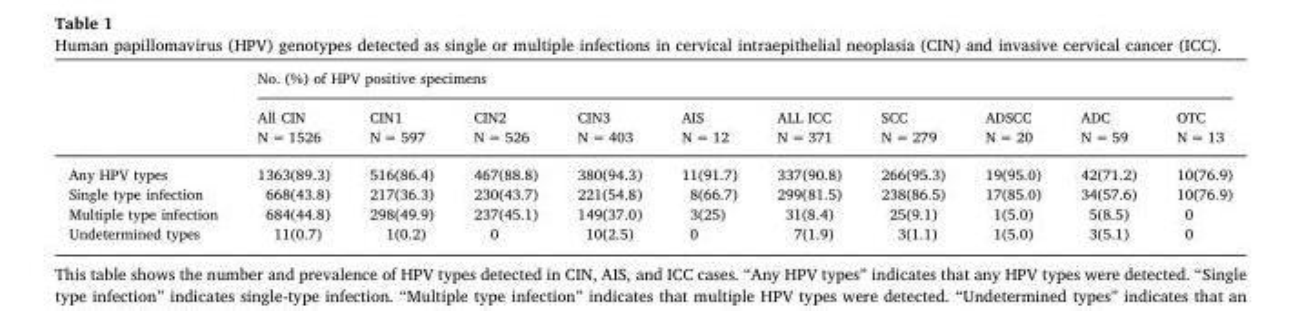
<table><thead><tr><td rowspan="3"></td><td colspan="10">No. (%) of HPV positive specimens</td></tr><tr><td rowspan="2">All CIN N = 1526</td><td rowspan="2">CIN1 N = 597</td><td rowspan="2">CIN2 N = 526</td><td rowspan="2">CIN3 N = 403</td><td rowspan="2">AIS N = 12</td><td rowspan="2">ALL ICC N = 371</td><td rowspan="2">SCC N = 279</td><td rowspan="2">ADSCC N = 20</td><td rowspan="2">ADC N = 59</td><td rowspan="2">OTC N = 13</td></tr><tr></tr></thead><tbody><tr><td>Any HPV types</td><td>1363(89.3)</td><td>516(86.4)</td><td>467(88.8)</td><td>380(94.3)</td><td>11(91.7)</td><td>337(90.8)</td><td>266(95.3)</td><td>19(95.0)</td><td>42(71.2)</td><td>10(76.9)</td></tr><tr><td>Single type infection</td><td>668(43.8)</td><td>217(36.3)</td><td>230(43.7)</td><td>221(54.8)</td><td>8(66.7)</td><td>299(81.5)</td><td>238(86.5)</td><td>17(85.0)</td><td>34(57.6)</td><td>10(76.9)</td></tr><tr><td>Multiple type infection</td><td>684(44.8)</td><td>298(49.9)</td><td>237(45.1)</td><td>149(37.0)</td><td>3(25)</td><td>31(8.4)</td><td>25(9.1)</td><td>1(5.0)</td><td>5(8.5)</td><td>0</td></tr><tr><td>Undetermined types</td><td>11(0.7)</td><td>1(0.2)</td><td>0</td><td>10(2.5)</td><td>0</td><td>7(1.9)</td><td>3(1.1)</td><td>1(5.0)</td><td>3(5.1)</td><td>0</td></tr></tbody></table>